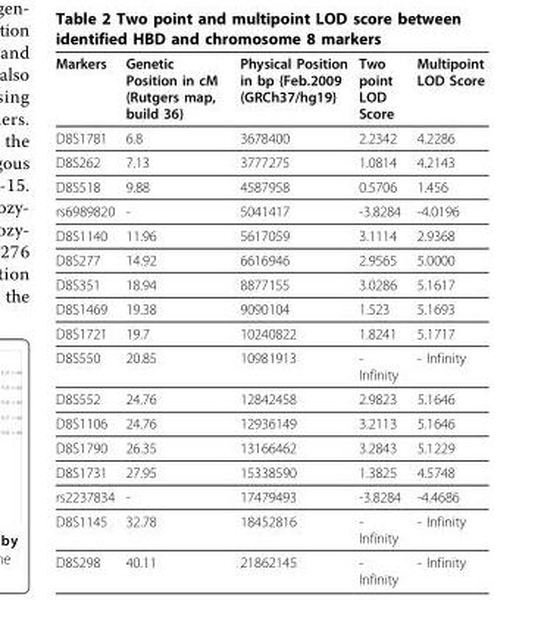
<table><thead><tr><td>Markers</td><td>Genetic Position in cM (Rutgers map, build 36)</td><td>Physical Position in bp {Feb.2009 (GRCh37/hg19}</td><td>Two point LOD Score</td><td>Multipoint LOD Score</td></tr></thead><tbody><tr><td>D8S1781</td><td>6.8</td><td>3678400</td><td>2.2342</td><td>4.2286</td></tr><tr><td>D8S262</td><td>7.13</td><td>3777275</td><td>1.0814</td><td>4.2143</td></tr><tr><td>D8S518</td><td>9.88</td><td>4587958</td><td>0.5706</td><td>1.456</td></tr><tr><td>rs6989820</td><td>-</td><td>5041417</td><td>-3.8284</td><td>-4.0196</td></tr><tr><td>D8S1140</td><td>11.96</td><td>5617059</td><td>3.1114</td><td>2.9368</td></tr><tr><td>D8S277</td><td>14.92</td><td>6616946</td><td>2.9565</td><td>5.0000</td></tr><tr><td>D8S351</td><td>18.94</td><td>8877155</td><td>3.0286</td><td>5.1617</td></tr><tr><td>D8S1469</td><td>19.38</td><td>9090104</td><td>1.523</td><td>5.1693</td></tr><tr><td>D8S1721</td><td>19.7</td><td>10240822</td><td>1.8241</td><td>5.1717</td></tr><tr><td>D8S550</td><td>20.85</td><td>10981913</td><td>- Infinity</td><td>- Infinity</td></tr><tr><td>D8S552</td><td>24.76</td><td>12842458</td><td>2.9823</td><td>5.1646</td></tr><tr><td>D8S1106</td><td>24.76</td><td>12936149</td><td>3.2113</td><td>5.1646</td></tr><tr><td>D8S1790</td><td>26.35</td><td>13166462</td><td>3.2843</td><td>5.1229</td></tr><tr><td>D8S1731</td><td>27.95</td><td>15338590</td><td>1.3825</td><td>4.5748</td></tr><tr><td>rs2237834</td><td>-</td><td>17479493</td><td>-3.8284</td><td>-4.4686</td></tr><tr><td>D8S1145</td><td>32.78</td><td>18452816</td><td>- Infinity</td><td>- Infinity</td></tr><tr><td>D8S298</td><td>40.11</td><td>21862145</td><td>- Infinity</td><td>- Infinity</td></tr></tbody></table>